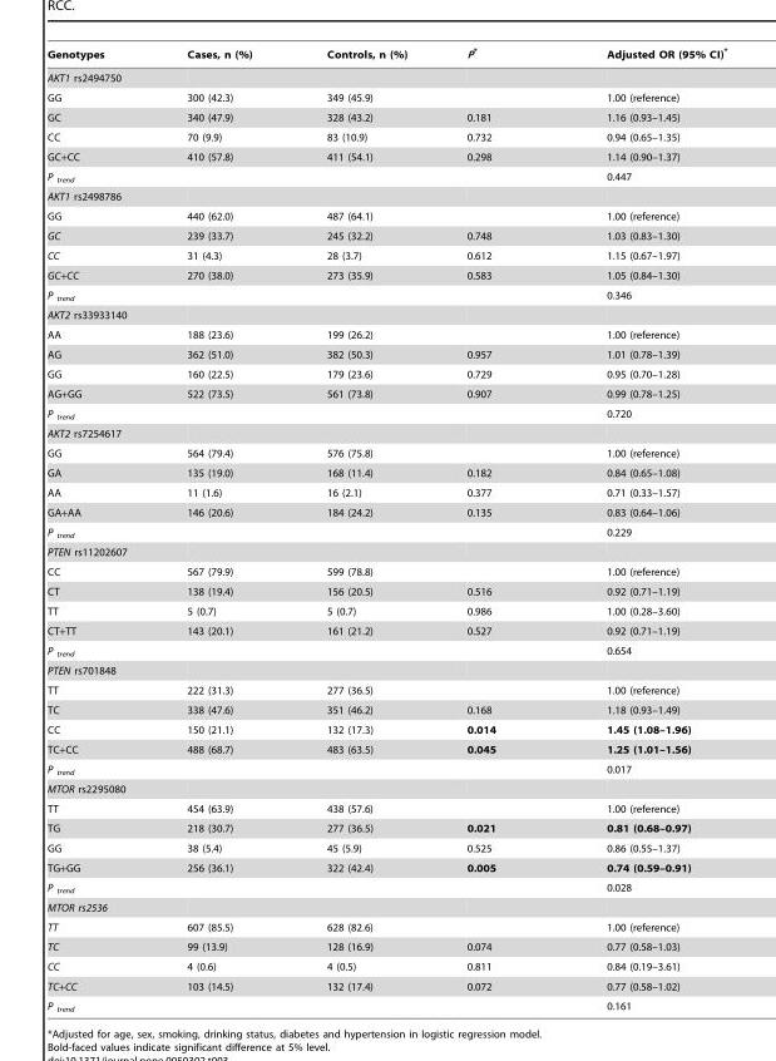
<table><thead><tr><td>Genotypes</td><td>Cases, n (%)</td><td>Controls, n (%)</td><td>P*</td><td>Adjusted OR (95% CI)*</td></tr></thead><tbody><tr><td colspan="5">AKT1 rs2494750</td></tr><tr><td>GG</td><td>300 (42.3)</td><td>349 (45.9)</td><td></td><td>1.00 (reference)</td></tr><tr><td>GC</td><td>340 (47.9)</td><td>328 (43.2)</td><td>0.181</td><td>1.16 (0.93–1.45)</td></tr><tr><td>CC</td><td>70 (9.9)</td><td>83 (10.9)</td><td>0.732</td><td>0.94 (0.65–1.35)</td></tr><tr><td>GC+CC</td><td>410 (57.8)</td><td>411 (54.1)</td><td>0.298</td><td>1.14 (0.90–1.37)</td></tr><tr><td>P <sub>trend</sub></td><td></td><td></td><td></td><td>0.447</td></tr><tr><td colspan="5">AKT1 rs2498786</td></tr><tr><td>GG</td><td>440 (62.0)</td><td>487 (64.1)</td><td></td><td>1.00 (reference)</td></tr><tr><td>GC</td><td>239 (33.7)</td><td>245 (32.2)</td><td>0.748</td><td>1.03 (0.83–1.30)</td></tr><tr><td>CC</td><td>31 (4.3)</td><td>28 (3.7)</td><td>0.612</td><td>1.15 (0.67–1.97)</td></tr><tr><td>GC+CC</td><td>270 (38.0)</td><td>273 (35.9)</td><td>0.583</td><td>1.05 (0.84–1.30)</td></tr><tr><td>P <sub>trend</sub></td><td></td><td></td><td></td><td>0.346</td></tr><tr><td colspan="5">AKT2 rs33933140</td></tr><tr><td>AA</td><td>188 (23.6)</td><td>199 (26.2)</td><td></td><td>1.00 (reference)</td></tr><tr><td>AG</td><td>362 (51.0)</td><td>382 (50.3)</td><td>0.957</td><td>1.01 (0.78–1.39)</td></tr><tr><td>GG</td><td>160 (22.5)</td><td>179 (23.6)</td><td>0.729</td><td>0.95 (0.70–1.28)</td></tr><tr><td>AG+GG</td><td>522 (73.5)</td><td>561 (73.8)</td><td>0.907</td><td>0.99 (0.78–1.25)</td></tr><tr><td>P <sub>trend</sub></td><td></td><td></td><td></td><td>0.720</td></tr><tr><td colspan="5">AKT2 rs7254617</td></tr><tr><td>GG</td><td>564 (79.4)</td><td>576 (75.8)</td><td></td><td>1.00 (reference)</td></tr><tr><td>GA</td><td>135 (19.0)</td><td>168 (11.4)</td><td>0.182</td><td>0.84 (0.65–1.08)</td></tr><tr><td>AA</td><td>11 (1.6)</td><td>16 (2.1)</td><td>0.377</td><td>0.71 (0.33–1.57)</td></tr><tr><td>GA+AA</td><td>146 (20.6)</td><td>184 (24.2)</td><td>0.135</td><td>0.83 (0.64–1.06)</td></tr><tr><td>P <sub>trend</sub></td><td></td><td></td><td></td><td>0.229</td></tr><tr><td colspan="5">PTEN rs11202607</td></tr><tr><td>CC</td><td>567 (79.9)</td><td>599 (78.8)</td><td></td><td>1.00 (reference)</td></tr><tr><td>CT</td><td>138 (19.4)</td><td>156 (20.5)</td><td>0.516</td><td>0.92 (0.71–1.19)</td></tr><tr><td>TT</td><td>5 (0.7)</td><td>5 (0.7)</td><td>0.986</td><td>1.00 (0.28–3.60)</td></tr><tr><td>CT+TT</td><td>143 (20.1)</td><td>161 (21.2)</td><td>0.527</td><td>0.92 (0.71–1.19)</td></tr><tr><td>P <sub>trend</sub></td><td></td><td></td><td></td><td>0.654</td></tr><tr><td colspan="5">PTEN rs701848</td></tr><tr><td>TT</td><td>222 (31.3)</td><td>277 (36.5)</td><td></td><td>1.00 (reference)</td></tr><tr><td>TC</td><td>338 (47.6)</td><td>351 (46.2)</td><td>0.168</td><td>1.18 (0.93–1.49)</td></tr><tr><td>CC</td><td>150 (21.1)</td><td>132 (17.3)</td><td>0.014</td><td>1.45 (1.08–1.96)</td></tr><tr><td>TC+CC</td><td>488 (68.7)</td><td>483 (63.5)</td><td>0.045</td><td>1.25 (1.01–1.56)</td></tr><tr><td>P <sub>trend</sub></td><td></td><td></td><td></td><td>0.017</td></tr><tr><td colspan="5">MTOR rs2295080</td></tr><tr><td>TT</td><td>454 (63.9)</td><td>438 (57.6)</td><td></td><td>1.00 (reference)</td></tr><tr><td>TG</td><td>218 (30.7)</td><td>277 (36.5)</td><td>0.021</td><td>0.81 (0.68–0.97)</td></tr><tr><td>GG</td><td>38 (5.4)</td><td>45 (5.9)</td><td>0.525</td><td>0.86 (0.55–1.37)</td></tr><tr><td>TG+GG</td><td>256 (36.1)</td><td>322 (42.4)</td><td>0.005</td><td>0.74 (0.59–0.91)</td></tr><tr><td>P <sub>trend</sub></td><td></td><td></td><td></td><td>0.028</td></tr><tr><td colspan="5">MTOR rs2536</td></tr><tr><td>TT</td><td>607 (85.5)</td><td>628 (82.6)</td><td></td><td>1.00 (reference)</td></tr><tr><td>TC</td><td>99 (13.9)</td><td>128 (16.9)</td><td>0.074</td><td>0.77 (0.58–1.03)</td></tr><tr><td>CC</td><td>4 (0.6)</td><td>4 (0.5)</td><td>0.811</td><td>0.84 (0.19–3.61)</td></tr><tr><td>TC+CC</td><td>103 (14.5)</td><td>132 (17.4)</td><td>0.072</td><td>0.77 (0.58–1.02)</td></tr><tr><td>P <sub>trend</sub></td><td></td><td></td><td></td><td>0.161</td></tr></tbody></table>